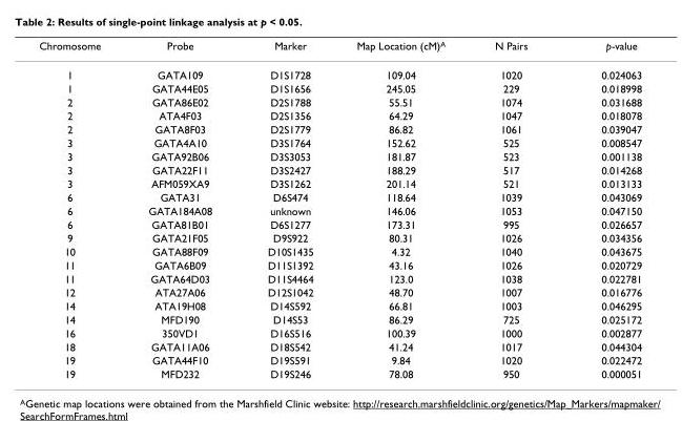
<table><thead><tr><td>Chromosome</td><td>Probe</td><td>Marker</td><td>Map Location (cM)A</td><td>N Pairs</td><td>p-value</td></tr></thead><tbody><tr><td>1</td><td>GATA109</td><td>D1S1728</td><td>109.04</td><td>1020</td><td>0.024063</td></tr><tr><td>1</td><td>GATA44E05</td><td>D1S1656</td><td>245.05</td><td>229</td><td>0.018998</td></tr><tr><td>2</td><td>GATA86E02</td><td>D2S1788</td><td>55.51</td><td>1074</td><td>0.031688</td></tr><tr><td>2</td><td>ATA4F03</td><td>D2S1356</td><td>64.29</td><td>1047</td><td>0.018078</td></tr><tr><td>2</td><td>GATA8F03</td><td>D2S1779</td><td>86.82</td><td>1061</td><td>0.039047</td></tr><tr><td>3</td><td>GATA4A10</td><td>D3S1764</td><td>152.62</td><td>525</td><td>0.008547</td></tr><tr><td>3</td><td>GATA92B06</td><td>D3S3053</td><td>181.87</td><td>523</td><td>0.001138</td></tr><tr><td>3</td><td>GATA22F11</td><td>D3S2427</td><td>188.29</td><td>517</td><td>0.014268</td></tr><tr><td>3</td><td>AFM059XA9</td><td>D3S1262</td><td>201.14</td><td>521</td><td>0.013133</td></tr><tr><td>6</td><td>GATA31</td><td>D6S474</td><td>118.64</td><td>1039</td><td>0.043069</td></tr><tr><td>6</td><td>GATA184A08</td><td>unknown</td><td>146.06</td><td>1053</td><td>0.047150</td></tr><tr><td>6</td><td>GATA81B01</td><td>D6S1277</td><td>173.31</td><td>995</td><td>0.026657</td></tr><tr><td>9</td><td>GATA21F05</td><td>D9S922</td><td>80.31</td><td>1026</td><td>0.034356</td></tr><tr><td>10</td><td>GATA88F09</td><td>D10S1435</td><td>4.32</td><td>1040</td><td>0.043675</td></tr><tr><td>11</td><td>GATA6B09</td><td>D11S1392</td><td>43.16</td><td>1026</td><td>0.020729</td></tr><tr><td>11</td><td>GATA64D03</td><td>D11S4464</td><td>123.0</td><td>1038</td><td>0.022781</td></tr><tr><td>12</td><td>ATA27A06</td><td>D12S1042</td><td>48.70</td><td>1007</td><td>0.016776</td></tr><tr><td>14</td><td>ATA19H08</td><td>D14S592</td><td>66.81</td><td>1003</td><td>0.046295</td></tr><tr><td>14</td><td>MFD190</td><td>D14S53</td><td>86.29</td><td>725</td><td>0.025172</td></tr><tr><td>16</td><td>350VD1</td><td>D16S516</td><td>100.39</td><td>1000</td><td>0.002877</td></tr><tr><td>18</td><td>GATA11A06</td><td>D18S542</td><td>41.24</td><td>1017</td><td>0.044304</td></tr><tr><td>19</td><td>GATA44F10</td><td>D19S591</td><td>9.84</td><td>1020</td><td>0.022472</td></tr><tr><td>19</td><td>MFD232</td><td>D19S246</td><td>78.08</td><td>950</td><td>0.000051</td></tr></tbody></table>